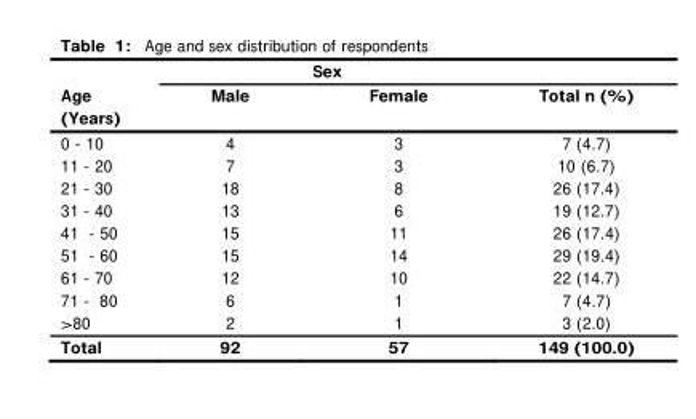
<table><thead><tr><td rowspan="2">Age (Years)</td><td colspan="3">Sex</td></tr><tr><td>Male</td><td>Female</td><td>Total n (%)</td></tr></thead><tbody><tr><td>0 - 10</td><td>4</td><td>3</td><td>7 (4.7)</td></tr><tr><td>11 - 20</td><td>7</td><td>3</td><td>10 (6.7)</td></tr><tr><td>21 - 30</td><td>18</td><td>8</td><td>26 (17.4)</td></tr><tr><td>31 - 40</td><td>13</td><td>6</td><td>19 (12.7)</td></tr><tr><td>41 - 50</td><td>15</td><td>11</td><td>26 (17.4)</td></tr><tr><td>51 - 60</td><td>15</td><td>14</td><td>29 (19.4)</td></tr><tr><td>61 - 70</td><td>12</td><td>10</td><td>22 (14.7)</td></tr><tr><td>71 - 80</td><td>6</td><td>1</td><td>7 (4.7)</td></tr><tr><td>&gt;80</td><td>2</td><td>1</td><td>3 (2.0)</td></tr><tr><td>Total</td><td>92</td><td>57</td><td>149 (100.0)</td></tr></tbody></table>